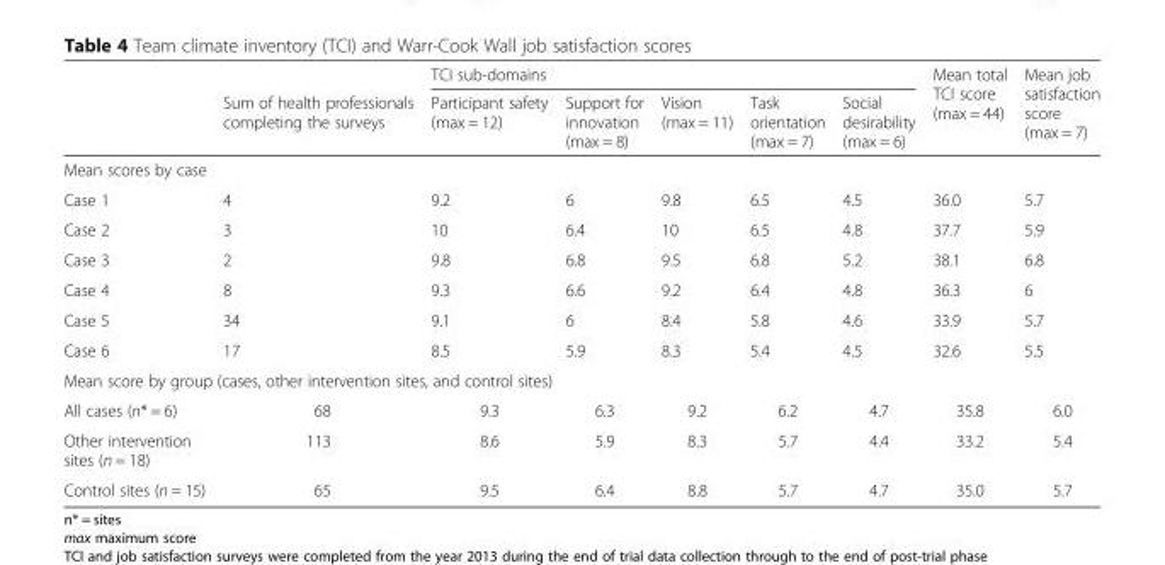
<table><thead><tr><td rowspan="2"></td><td rowspan="2">Sum of health professionals completing the surveys</td><td colspan="5">TCI sub-domains</td><td rowspan="2">Mean total TCI score (max = 44)</td><td rowspan="2">Mean job satisfaction score (max = 7)</td></tr><tr><td>Participant safety (max = 12)</td><td>Support for innovation (max = 8)</td><td>Vision (max = 11)</td><td>Task orientation (max = 7)</td><td>Social desirability (max = 6)</td></tr></thead><tbody><tr><td colspan="9">Mean scores by case</td></tr><tr><td>Case 1</td><td>4</td><td>9.2</td><td>6</td><td>9.8</td><td>6.5</td><td>4.5</td><td>36.0</td><td>5.7</td></tr><tr><td>Case 2</td><td>3</td><td>10</td><td>6.4</td><td>10</td><td>6.5</td><td>4.8</td><td>37.7</td><td>5.9</td></tr><tr><td>Case 3</td><td>2</td><td>9.8</td><td>6.8</td><td>9.5</td><td>6.8</td><td>5.2</td><td>38.1</td><td>6.8</td></tr><tr><td>Case 4</td><td>8</td><td>9.3</td><td>6.6</td><td>9.2</td><td>6.4</td><td>4.8</td><td>36.3</td><td>6</td></tr><tr><td>Case 5</td><td>34</td><td>9.1</td><td>6</td><td>8.4</td><td>5.8</td><td>4.6</td><td>33.9</td><td>5.7</td></tr><tr><td>Case 6</td><td>17</td><td>8.5</td><td>5.9</td><td>8.3</td><td>5.4</td><td>4.5</td><td>32.6</td><td>5.5</td></tr><tr><td colspan="9">Mean score by group (cases, other intervention sites, and control sites)</td></tr><tr><td>All cases (n* = 6)</td><td>68</td><td>9.3</td><td>6.3</td><td>9.2</td><td>6.2</td><td>4.7</td><td>35.8</td><td>6.0</td></tr><tr><td>Other intervention sites (n = 18)</td><td>113</td><td>8.6</td><td>5.9</td><td>8.3</td><td>5.7</td><td>4.4</td><td>33.2</td><td>5.4</td></tr><tr><td>Control sites (n = 15)</td><td>65</td><td>9.5</td><td>6.4</td><td>8.8</td><td>5.7</td><td>4.7</td><td>35.0</td><td>5.7</td></tr></tbody></table>